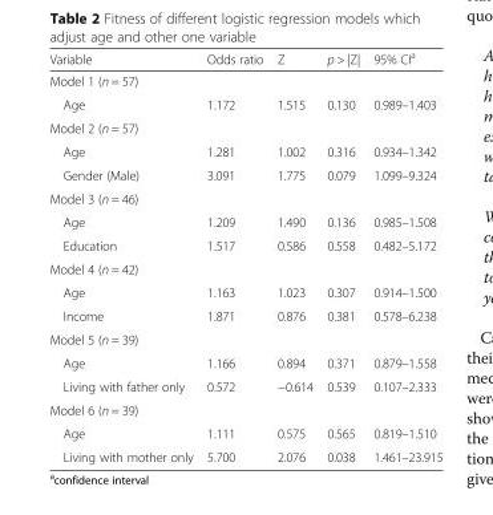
<table><thead><tr><td>Variable</td><td>Odds ratio</td><td>Z</td><td>p &gt; |Z|</td><td>95% CI<sup>a</sup></td></tr></thead><tbody><tr><td colspan="5">Model 1 (n = 57)</td></tr><tr><td>Age</td><td>1.172</td><td>1.515</td><td>0.130</td><td>0.989–1.403</td></tr><tr><td colspan="5">Model 2 (n = 57)</td></tr><tr><td>Age</td><td>1.281</td><td>1.002</td><td>0.316</td><td>0.934–1.342</td></tr><tr><td>Gender (Male)</td><td>3.091</td><td>1.775</td><td>0.079</td><td>1.099–9.324</td></tr><tr><td colspan="5">Model 3 (n = 46)</td></tr><tr><td>Age</td><td>1.209</td><td>1.490</td><td>0.136</td><td>0.985–1.508</td></tr><tr><td>Education</td><td>1.517</td><td>0.586</td><td>0.558</td><td>0.482–5.172</td></tr><tr><td colspan="5">Model 4 (n = 42)</td></tr><tr><td>Age</td><td>1.163</td><td>1.023</td><td>0.307</td><td>0.914–1.500</td></tr><tr><td>Income</td><td>1.871</td><td>0.876</td><td>0.381</td><td>0.578–6.238</td></tr><tr><td colspan="5">Model 5 (n = 39)</td></tr><tr><td>Age</td><td>1.166</td><td>0.894</td><td>0.371</td><td>0.879–1.558</td></tr><tr><td>Living with father only</td><td>0.572</td><td>−0.614</td><td>0.539</td><td>0.107–2.333</td></tr><tr><td colspan="5">Model 6 (n = 39)</td></tr><tr><td>Age</td><td>1.111</td><td>0.575</td><td>0.565</td><td>0.819–1.510</td></tr><tr><td>Living with mother only</td><td>5.700</td><td>2.076</td><td>0.038</td><td>1.461–23.915</td></tr></tbody></table>